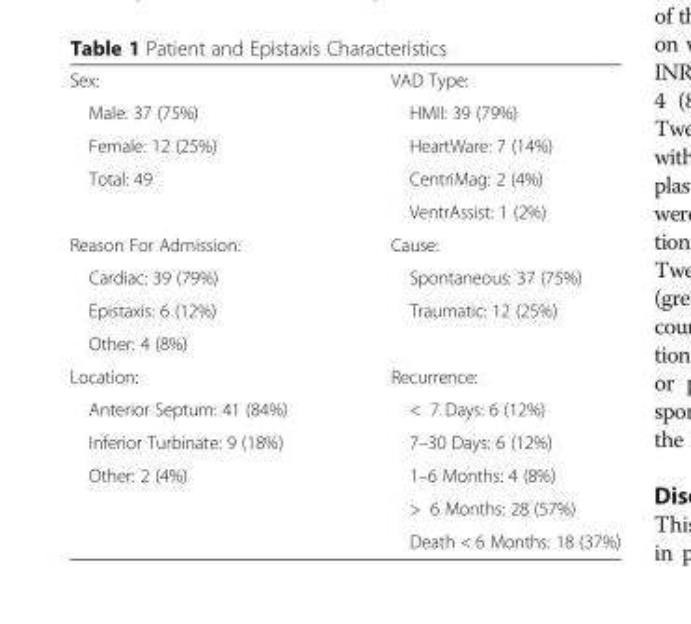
<table><tbody><tr><td>Sex:</td><td>VAD Type:</td></tr><tr><td>Male: 37 (75%)</td><td>HMII: 39 (79%)</td></tr><tr><td>Female: 12 (25%)</td><td>HeartWare: 7 (14%)</td></tr><tr><td rowspan="2">Total: 49</td><td>CentriMag: 2 (4%)</td></tr><tr><td>VentrAssist: 1 (2%)</td></tr><tr><td>Reason For Admission:</td><td>Cause:</td></tr><tr><td>Cardiac: 39 (79%)</td><td>Spontaneous: 37 (75%)</td></tr><tr><td>Epistaxis: 6 (12%)</td><td>Traumatic: 12 (25%)</td></tr><tr><td colspan="2">Other: 4 (8%)</td></tr><tr><td>Location:</td><td>Recurrence:</td></tr><tr><td>Anterior Septum: 41 (84%)</td><td>&lt; 7 Days: 6 (12%)</td></tr><tr><td>Inferior Turbinate: 9 (18%)</td><td>7–30 Days: 6 (12%)</td></tr><tr><td rowspan="3">Other: 2 (4%)</td><td>1–6 Months: 4 (8%)</td></tr><tr><td>&gt; 6 Months: 28 (57%)</td></tr><tr><td>Death &lt; 6 Months: 18 (37%)</td></tr></tbody></table>